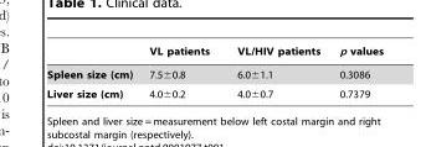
<table><thead><tr><td></td><td>VL patients</td><td>VL/HIV patients</td><td>p values</td></tr></thead><tbody><tr><td>Spleen size (cm)</td><td>7.5±0.8</td><td>6.0±1.1</td><td>0.3086</td></tr><tr><td>Liver size (cm)</td><td>4.0±0.2</td><td>4.0±0.7</td><td>0.7379</td></tr></tbody></table>